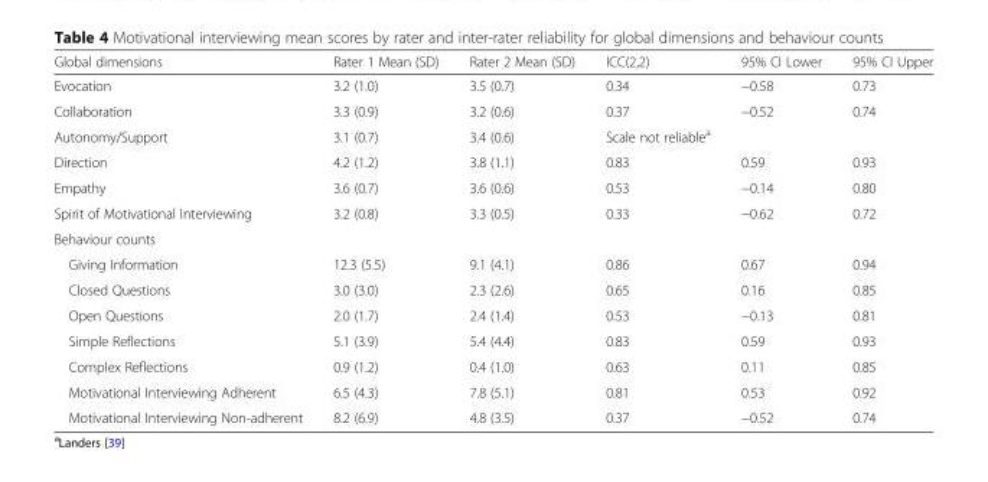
<table><thead><tr><td>Global dimensions</td><td>Rater 1 Mean (SD)</td><td>Rater 2 Mean (SD)</td><td>ICC(2,2)</td><td>95% CI Lower</td><td>95% CI Upper</td></tr></thead><tbody><tr><td>Evocation</td><td>3.2 (1.0)</td><td>3.5 (0.7)</td><td>0.34</td><td>−0.58</td><td>0.73</td></tr><tr><td>Collaboration</td><td>3.3 (0.9)</td><td>3.2 (0.6)</td><td>0.37</td><td>−0.52</td><td>0.74</td></tr><tr><td>Autonomy/Support</td><td>3.1 (0.7)</td><td>3.4 (0.6)</td><td>Scale not reliable<sup>a</sup></td><td></td><td></td></tr><tr><td>Direction</td><td>4.2 (1.2)</td><td>3.8 (1.1)</td><td>0.83</td><td>0.59</td><td>0.93</td></tr><tr><td>Empathy</td><td>3.6 (0.7)</td><td>3.6 (0.6)</td><td>0.53</td><td>−0.14</td><td>0.80</td></tr><tr><td>Spirit of Motivational Interviewing</td><td>3.2 (0.8)</td><td>3.3 (0.5)</td><td>0.33</td><td>−0.62</td><td>0.72</td></tr><tr><td colspan="6">Behaviour counts</td></tr><tr><td>Giving Information</td><td>12.3 (5.5)</td><td>9.1 (4.1)</td><td>0.86</td><td>0.67</td><td>0.94</td></tr><tr><td>Closed Questions</td><td>3.0 (3.0)</td><td>2.3 (2.6)</td><td>0.65</td><td>0.16</td><td>0.85</td></tr><tr><td>Open Questions</td><td>2.0 (1.7)</td><td>2.4 (1.4)</td><td>0.53</td><td>−0.13</td><td>0.81</td></tr><tr><td>Simple Reflections</td><td>5.1 (3.9)</td><td>5.4 (4.4)</td><td>0.83</td><td>0.59</td><td>0.93</td></tr><tr><td>Complex Reflections</td><td>0.9 (1.2)</td><td>0.4 (1.0)</td><td>0.63</td><td>0.11</td><td>0.85</td></tr><tr><td>Motivational Interviewing Adherent</td><td>6.5 (4.3)</td><td>7.8 (5.1)</td><td>0.81</td><td>0.53</td><td>0.92</td></tr><tr><td>Motivational Interviewing Non-adherent</td><td>8.2 (6.9)</td><td>4.8 (3.5)</td><td>0.37</td><td>−0.52</td><td>0.74</td></tr></tbody></table>